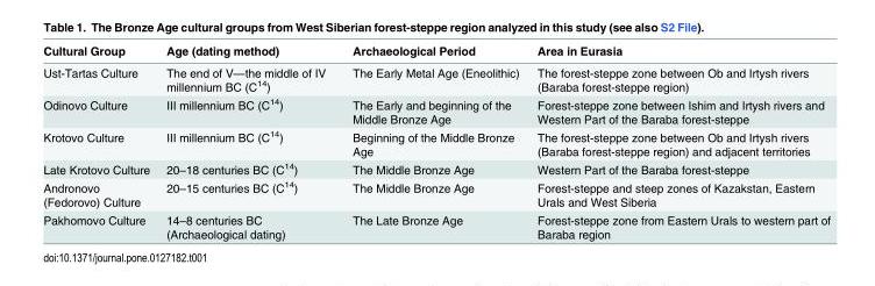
<table><thead><tr><td>Cultural Group</td><td>Age (dating method)</td><td>Archaeological Period</td><td>Area in Eurasia</td></tr></thead><tbody><tr><td>Ust-Tartas Culture</td><td>The end of V—the middle of IV millennium BC (C<sup>14</sup>)</td><td>The Early Metal Age (Eneolithic)</td><td>The forest-steppe zone between Ob and Irtysh rivers (Baraba forest-steppe region)</td></tr><tr><td>Odinovo Culture</td><td>III millennium BC (C<sup>14</sup>)</td><td>The Early and beginning of the Middle Bronze Age</td><td>Forest-steppe zone between Ishim and Irtysh rivers and Western Part of the Baraba forest-steppe</td></tr><tr><td>Krotovo Culture</td><td>III millennium BC (C<sup>14</sup>)</td><td>Beginning of the Middle Bronze Age</td><td>The forest-steppe zone between Ob and Irtysh rivers (Baraba forest-steppe region) and adjacent territories</td></tr><tr><td>Late Krotovo Culture</td><td>20–18 centuries BC (C<sup>14</sup>)</td><td>The Middle Bronze Age</td><td>Western Part of the Baraba forest-steppe</td></tr><tr><td>Andronovo (Fedorovo) Culture</td><td>20–15 centuries BC (C<sup>14</sup>)</td><td>The Middle Bronze Age</td><td>Forest-steppe and steep zones of Kazakstan, Eastern Urals and West Siberia</td></tr><tr><td>Pakhomovo Culture</td><td>14–8 centuries BC (Archaeological dating)</td><td>The Late Bronze Age</td><td>Forest-steppe zone from Eastern Urals to western part of Baraba region</td></tr></tbody></table>